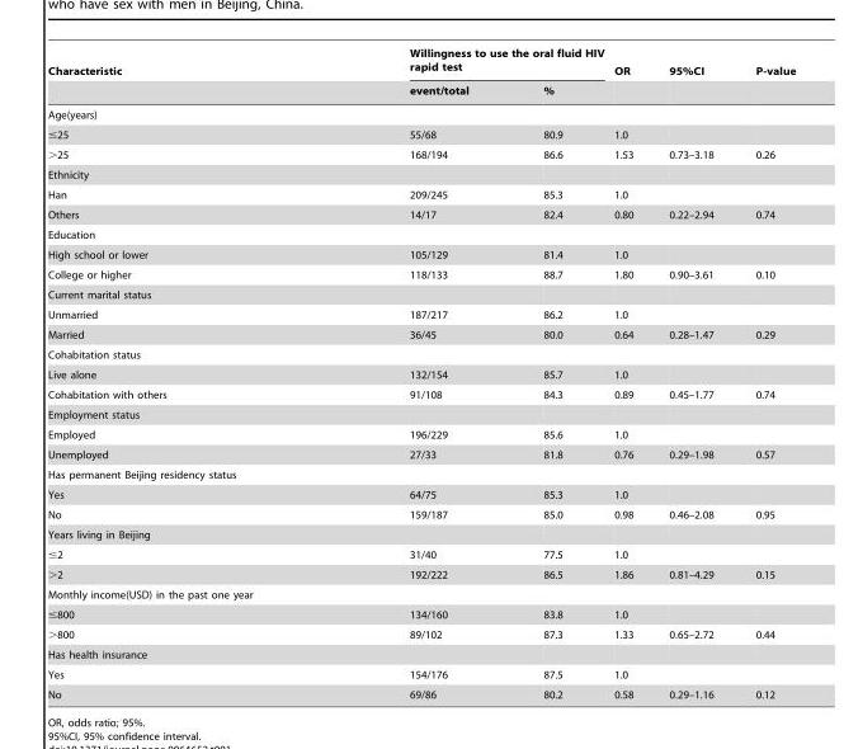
<table><thead><tr><td rowspan="2">Characteristic</td><td colspan="2">Willingness to use the oral fluid HIV rapid test</td><td rowspan="2">OR</td><td rowspan="2">95%CI</td><td rowspan="2">P-value</td></tr><tr><td>event/total</td><td>%</td></tr></thead><tbody><tr><td colspan="6">Age(years)</td></tr><tr><td>≤25</td><td>55/68</td><td>80.9</td><td>1.0</td><td></td><td></td></tr><tr><td>&gt;25</td><td>168/194</td><td>86.6</td><td>1.53</td><td>0.73–3.18</td><td>0.26</td></tr><tr><td colspan="6">Ethnicity</td></tr><tr><td>Han</td><td>209/245</td><td>85.3</td><td>1.0</td><td></td><td></td></tr><tr><td>Others</td><td>14/17</td><td>82.4</td><td>0.80</td><td>0.22–2.94</td><td>0.74</td></tr><tr><td colspan="6">Education</td></tr><tr><td>High school or lower</td><td>105/129</td><td>81.4</td><td>1.0</td><td></td><td></td></tr><tr><td>College or higher</td><td>118/133</td><td>88.7</td><td>1.80</td><td>0.90–3.61</td><td>0.10</td></tr><tr><td colspan="6">Current marital status</td></tr><tr><td>Unmarried</td><td>187/217</td><td>86.2</td><td>1.0</td><td></td><td></td></tr><tr><td>Married</td><td>36/45</td><td>80.0</td><td>0.64</td><td>0.28–1.47</td><td>0.29</td></tr><tr><td colspan="6">Cohabitation status</td></tr><tr><td>Live alone</td><td>132/154</td><td>85.7</td><td>1.0</td><td></td><td></td></tr><tr><td>Cohabitation with others</td><td>91/108</td><td>84.3</td><td>0.89</td><td>0.45–1.77</td><td>0.74</td></tr><tr><td colspan="6">Employment status</td></tr><tr><td>Employed</td><td>196/229</td><td>85.6</td><td>1.0</td><td></td><td></td></tr><tr><td>Unemployed</td><td>27/33</td><td>81.8</td><td>0.76</td><td>0.29–1.98</td><td>0.57</td></tr><tr><td colspan="6">Has permanent Beijing residency status</td></tr><tr><td>Yes</td><td>64/75</td><td>85.3</td><td>1.0</td><td></td><td></td></tr><tr><td>No</td><td>159/187</td><td>85.0</td><td>0.98</td><td>0.46–2.08</td><td>0.95</td></tr><tr><td colspan="6">Years living in Beijing</td></tr><tr><td>≤2</td><td>31/40</td><td>77.5</td><td>1.0</td><td></td><td></td></tr><tr><td>&gt;2</td><td>192/222</td><td>86.5</td><td>1.86</td><td>0.81–4.29</td><td>0.15</td></tr><tr><td colspan="6">Monthly income(USD) in the past one year</td></tr><tr><td>≤800</td><td>134/160</td><td>83.8</td><td>1.0</td><td></td><td></td></tr><tr><td>&gt;800</td><td>89/102</td><td>87.3</td><td>1.33</td><td>0.65–2.72</td><td>0.44</td></tr><tr><td colspan="6">Has health insurance</td></tr><tr><td>Yes</td><td>154/176</td><td>87.5</td><td>1.0</td><td></td><td></td></tr><tr><td>No</td><td>69/86</td><td>80.2</td><td>0.58</td><td>0.29–1.16</td><td>0.12</td></tr></tbody></table>